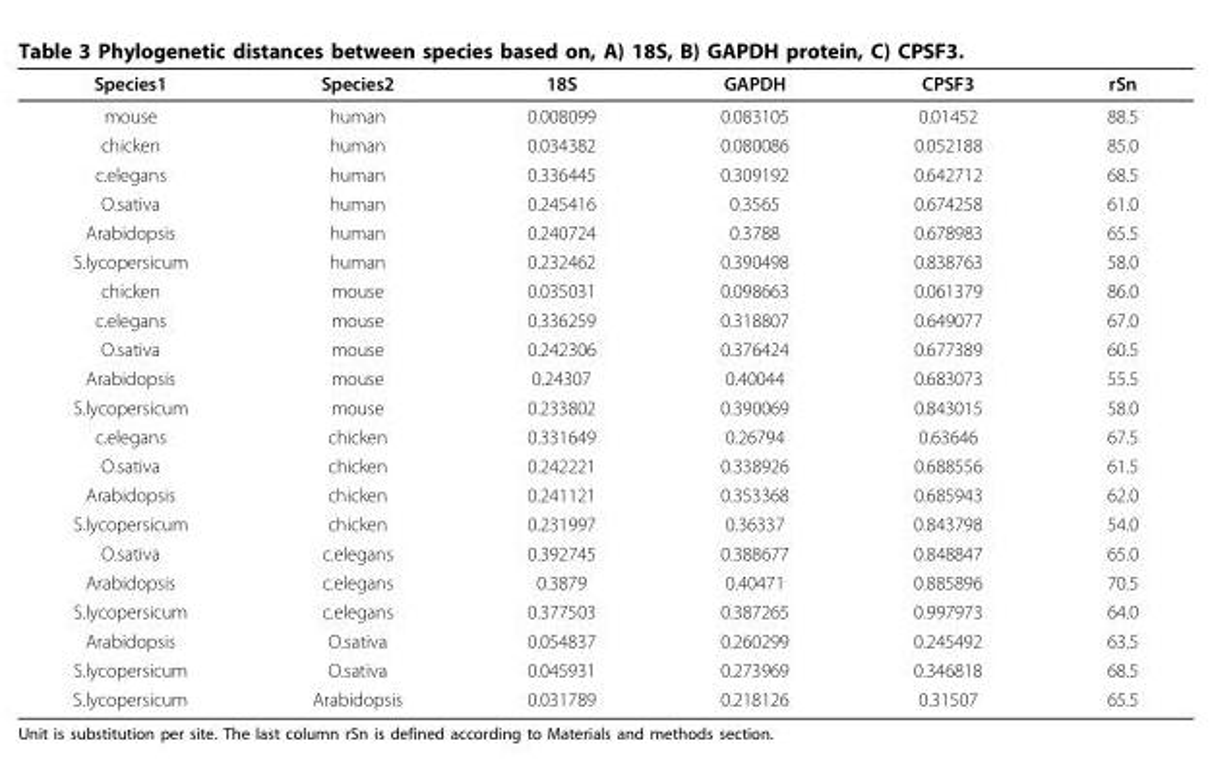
<table><thead><tr><td>Species1</td><td>Species2</td><td>18S</td><td>GAPDH</td><td>CPSF3</td><td>rSn</td></tr></thead><tbody><tr><td>mouse</td><td>human</td><td>0.008099</td><td>0.083105</td><td>0.01452</td><td>88.5</td></tr><tr><td>chicken</td><td>human</td><td>0.034382</td><td>0.080086</td><td>0.052188</td><td>85.0</td></tr><tr><td>c.elegans</td><td>human</td><td>0.336445</td><td>0.309192</td><td>0.642712</td><td>68.5</td></tr><tr><td>O.sativa</td><td>human</td><td>0.245416</td><td>0.3565</td><td>0.674258</td><td>61.0</td></tr><tr><td>Arabidopsis</td><td>human</td><td>0.240724</td><td>0.3788</td><td>0.678983</td><td>65.5</td></tr><tr><td>S.lycopersicum</td><td>human</td><td>0.232462</td><td>0.390498</td><td>0.838763</td><td>58.0</td></tr><tr><td>chicken</td><td>mouse</td><td>0.035031</td><td>0.098663</td><td>0.061379</td><td>86.0</td></tr><tr><td>c.elegans</td><td>mouse</td><td>0.336259</td><td>0.318807</td><td>0.649077</td><td>67.0</td></tr><tr><td>O.sativa</td><td>mouse</td><td>0.242306</td><td>0.376424</td><td>0.677389</td><td>60.5</td></tr><tr><td>Arabidopsis</td><td>mouse</td><td>0.24307</td><td>0.40044</td><td>0.683073</td><td>55.5</td></tr><tr><td>S.lycopersicum</td><td>mouse</td><td>0.233802</td><td>0.390069</td><td>0.843015</td><td>58.0</td></tr><tr><td>c.elegans</td><td>chicken</td><td>0.331649</td><td>0.26794</td><td>0.63646</td><td>67.5</td></tr><tr><td>O.sativa</td><td>chicken</td><td>0.242221</td><td>0.338926</td><td>0.688556</td><td>61.5</td></tr><tr><td>Arabidopsis</td><td>chicken</td><td>0.241121</td><td>0.353368</td><td>0.685943</td><td>62.0</td></tr><tr><td>S.lycopersicum</td><td>chicken</td><td>0.231997</td><td>0.36337</td><td>0.843798</td><td>54.0</td></tr><tr><td>O.sativa</td><td>c.elegans</td><td>0.392745</td><td>0.388677</td><td>0.848847</td><td>65.0</td></tr><tr><td>Arabidopsis</td><td>c.elegans</td><td>0.3879</td><td>0.40471</td><td>0.885896</td><td>70.5</td></tr><tr><td>S.lycopersicum</td><td>c.elegans</td><td>0.377503</td><td>0.387265</td><td>0.997973</td><td>64.0</td></tr><tr><td>Arabidopsis</td><td>O.sativa</td><td>0.054837</td><td>0.260299</td><td>0.245492</td><td>63.5</td></tr><tr><td>S.lycopersicum</td><td>O.sativa</td><td>0.045931</td><td>0.273969</td><td>0.346818</td><td>68.5</td></tr><tr><td>S.lycopersicum</td><td>Arabidopsis</td><td>0.031789</td><td>0.218126</td><td>0.31507</td><td>65.5</td></tr></tbody></table>